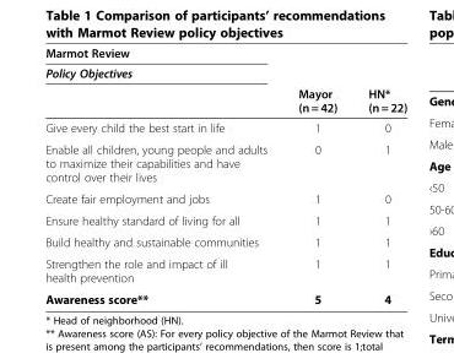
<table><thead><tr><td rowspan="3">Marmot Review Policy Objectives</td><td rowspan="3">Mayor (n = 42)</td><td rowspan="3">HN* (n = 22)</td></tr><tr></tr><tr></tr></thead><tbody><tr><td>Give every child the best start in life</td><td>1</td><td>0</td></tr><tr><td>Enable all children, young people and adults to maximize their capabilities and have control over their lives</td><td>0</td><td>1</td></tr><tr><td>Create fair employment and jobs</td><td>1</td><td>0</td></tr><tr><td>Ensure healthy standard of living for all</td><td>1</td><td>1</td></tr><tr><td>Build healthy and sustainable communities</td><td>1</td><td>1</td></tr><tr><td>Strengthen the role and impact of ill health prevention</td><td>1</td><td>1</td></tr><tr><td>Awareness score**</td><td>5</td><td>4</td></tr></tbody></table>